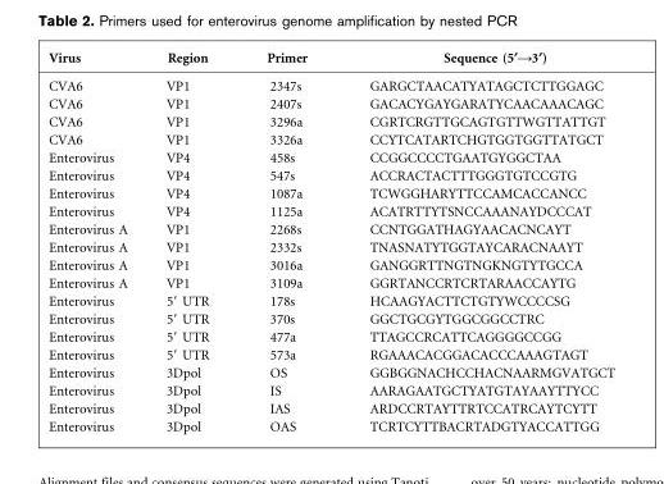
<table><thead><tr><td>Virus</td><td>Region</td><td>Primer</td><td>Sequence (5§A3§)</td></tr></thead><tbody><tr><td>CVA6</td><td>VP1</td><td>2347s</td><td>GARGCTAACATYATAGCTCTTGGAGC</td></tr><tr><td>CVA6</td><td>VP1</td><td>2407s</td><td>GACACYGAYGARATYCAACAAACAGC</td></tr><tr><td>CVA6</td><td>VP1</td><td>3296a</td><td>CGRTCRGTTGCAGTGTTWGTTATTGT</td></tr><tr><td>CVA6</td><td>VP1</td><td>3326a</td><td>CCYTCATARTCHGTGGTGGTTATGCT</td></tr><tr><td>Enterovirus</td><td>VP4</td><td>458s</td><td>CCGGCCCCTGAATGYGGCTAA</td></tr><tr><td>Enterovirus</td><td>VP4</td><td>547s</td><td>ACCRACTACTTTGGGTGTCCGTG</td></tr><tr><td>Enterovirus</td><td>VP4</td><td>1087a</td><td>TCWGGHARYTTCCAMCACCANCC</td></tr><tr><td>Enterovirus</td><td>VP4</td><td>1125a</td><td>ACATRTTYTSNCCAAANAYDCCCAT</td></tr><tr><td>Enterovirus A</td><td>VP1</td><td>2268s</td><td>CCNTGGATHAGYAACACNCAYT</td></tr><tr><td>Enterovirus A</td><td>VP1</td><td>2332s</td><td>TNASNATYTGGTAYCARACNAAYT</td></tr><tr><td>Enterovirus A</td><td>VP1</td><td>3016a</td><td>GANGGRTTNGTNGKNGTYTGCCA</td></tr><tr><td>Enterovirus A</td><td>VP1</td><td>3109a</td><td>GGRTANCCRTCRTARAACCAYTG</td></tr><tr><td>Enterovirus</td><td>5′ UTR</td><td>178s</td><td>HCAAGYACTTCTGTYWCCCCSG</td></tr><tr><td>Enterovirus</td><td>5′ UTR</td><td>370s</td><td>GGCTGCGYTGGCGGCCTRC</td></tr><tr><td>Enterovirus</td><td>5′ UTR</td><td>477a</td><td>TTAGCCRCATTCAGGGGCCGG</td></tr><tr><td>Enterovirus</td><td>5′ UTR</td><td>573a</td><td>RGAAACACGGACACCCAAAGTAGT</td></tr><tr><td>Enterovirus</td><td>3Dpol</td><td>OS</td><td>GGBGGNACHCCHACNAARMGVATGCT</td></tr><tr><td>Enterovirus</td><td>3Dpol</td><td>IS</td><td>AARAGAATGCTYATGTAYAAYTTYCC</td></tr><tr><td>Enterovirus</td><td>3Dpol</td><td>IAS</td><td>ARDCCRTAYTTRTCCATRCAYTCYTT</td></tr><tr><td>Enterovirus</td><td>3Dpol</td><td>OAS</td><td>TCRTCYTTBACRTADGTYACCATTGG</td></tr></tbody></table>